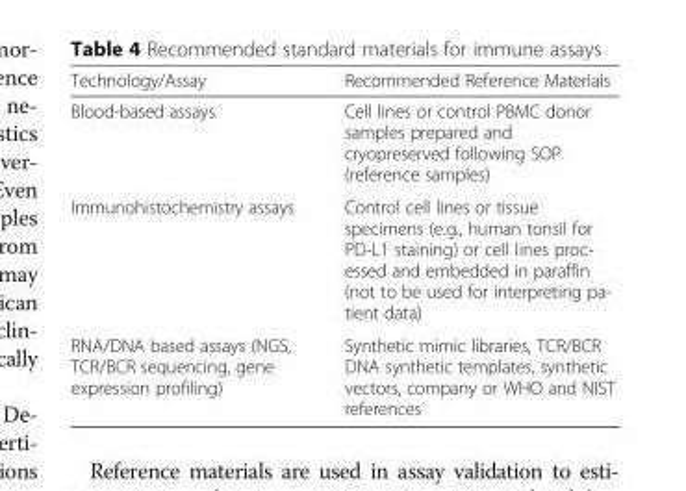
<table><thead><tr><td>Technology/Assay</td><td>Recommended Reference Materials</td></tr></thead><tbody><tr><td>Blood-based assays</td><td>Cell lines or control PBMC donor samples prepared and cryopreserved following SOP (reference samples)</td></tr><tr><td>Immunohistochemistry assays</td><td>Control cell lines or tissue specimens (e.g., human tonsil for PD-L1 staining) or cell lines proc- essed and embedded in paraffin (not to be used for interpreting pa- tient data)</td></tr><tr><td>RNA/DNA based assays (NGS, TCR/BCR sequencing, gene expression profiling)</td><td>Synthetic mimic libraries, TCR/BCR DNA synthetic templates, synthetic vectors, company or WHO and NIST references</td></tr></tbody></table>